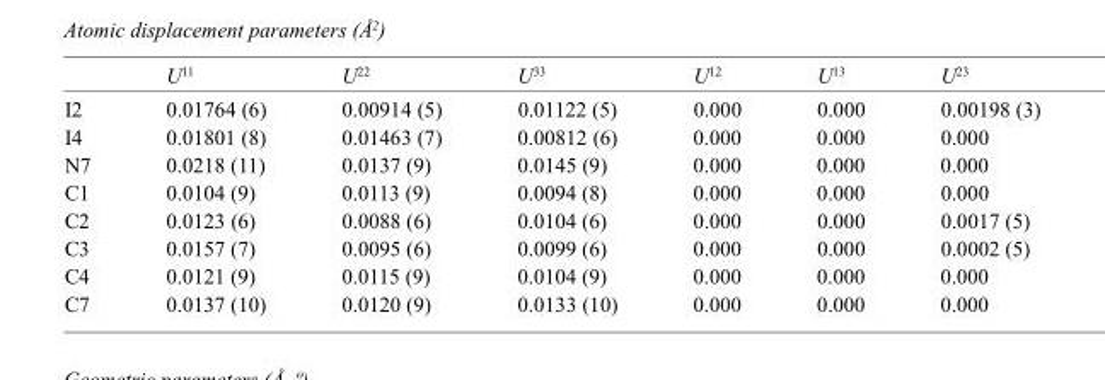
<table><thead><tr><td></td><td>U<sup>11</sup></td><td>U<sup>22</sup></td><td>U<sup>33</sup></td><td>U<sup>12</sup></td><td>U<sup>13</sup></td><td>U<sup>23</sup></td></tr></thead><tbody><tr><td>I2</td><td>0.01764 (6)</td><td>0.00914 (5)</td><td>0.01122 (5)</td><td>0.000</td><td>0.000</td><td>0.00198 (3)</td></tr><tr><td>I4</td><td>0.01801 (8)</td><td>0.01463 (7)</td><td>0.00812 (6)</td><td>0.000</td><td>0.000</td><td>0.000</td></tr><tr><td>N7</td><td>0.0218 (11)</td><td>0.0137 (9)</td><td>0.0145 (9)</td><td>0.000</td><td>0.000</td><td>0.000</td></tr><tr><td>C1</td><td>0.0104 (9)</td><td>0.0113 (9)</td><td>0.0094 (8)</td><td>0.000</td><td>0.000</td><td>0.000</td></tr><tr><td>C2</td><td>0.0123 (6)</td><td>0.0088 (6)</td><td>0.0104 (6)</td><td>0.000</td><td>0.000</td><td>0.0017 (5)</td></tr><tr><td>C3</td><td>0.0157 (7)</td><td>0.0095 (6)</td><td>0.0099 (6)</td><td>0.000</td><td>0.000</td><td>0.0002 (5)</td></tr><tr><td>C4</td><td>0.0121 (9)</td><td>0.0115 (9)</td><td>0.0104 (9)</td><td>0.000</td><td>0.000</td><td>0.000</td></tr><tr><td>C7</td><td>0.0137 (10)</td><td>0.0120 (9)</td><td>0.0133 (10)</td><td>0.000</td><td>0.000</td><td>0.000</td></tr></tbody></table>